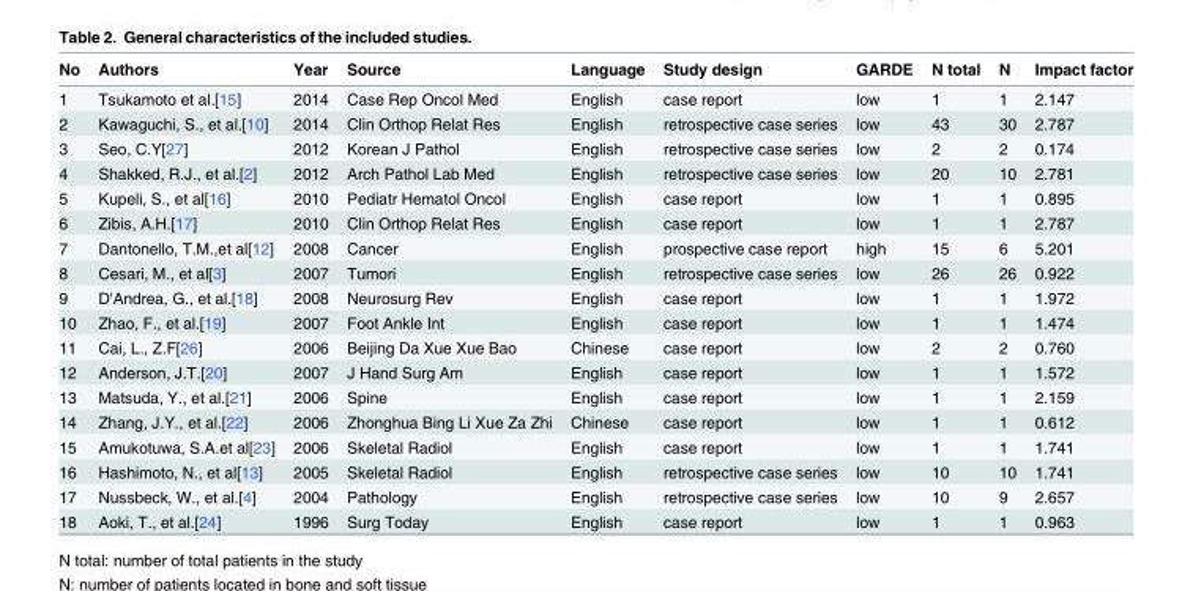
<table><thead><tr><td>No</td><td>Authors</td><td>Year</td><td>Source</td><td>Language</td><td>Study design</td><td>GARDE</td><td>N total</td><td>N</td><td>Impact factor</td></tr></thead><tbody><tr><td>1</td><td>Tsukamoto et al.[15]</td><td>2014</td><td>Case Rep Oncol Med</td><td>English</td><td>case report</td><td>low</td><td>1</td><td>1</td><td>2.147</td></tr><tr><td>2</td><td>Kawaguchi, S., et al.[10]</td><td>2014</td><td>Clin Orthop Relat Res</td><td>English</td><td>retrospective case series</td><td>low</td><td>43</td><td>30</td><td>2.787</td></tr><tr><td>3</td><td>Seo, C.Y[27]</td><td>2012</td><td>Korean J Pathol</td><td>English</td><td>retrospective case series</td><td>low</td><td>2</td><td>2</td><td>0.174</td></tr><tr><td>4</td><td>Shakked, R.J., et al.[2]</td><td>2012</td><td>Arch Pathol Lab Med</td><td>English</td><td>retrospective case series</td><td>low</td><td>20</td><td>10</td><td>2.781</td></tr><tr><td>5</td><td>Kupeli, S., et al[16]</td><td>2010</td><td>Pediatr Hematol Oncol</td><td>English</td><td>case report</td><td>low</td><td>1</td><td>1</td><td>0.895</td></tr><tr><td>6</td><td>Zibis, A.H.[17]</td><td>2010</td><td>Clin Orthop Relat Res</td><td>English</td><td>case report</td><td>low</td><td>1</td><td>1</td><td>2.787</td></tr><tr><td>7</td><td>Dantonello, T.M.,et al[12]</td><td>2008</td><td>Cancer</td><td>English</td><td>prospective case report</td><td>high</td><td>15</td><td>6</td><td>5.201</td></tr><tr><td>8</td><td>Cesari, M., et al[3]</td><td>2007</td><td>Tumori</td><td>English</td><td>retrospective case series</td><td>low</td><td>26</td><td>26</td><td>0.922</td></tr><tr><td>9</td><td>D&#x27;Andrea, G., et al.[18]</td><td>2008</td><td>Neurosurg Rev</td><td>English</td><td>case report</td><td>low</td><td>1</td><td>1</td><td>1.972</td></tr><tr><td>10</td><td>Zhao, F., et al.[19]</td><td>2007</td><td>Foot Ankle Int</td><td>English</td><td>case report</td><td>low</td><td>1</td><td>1</td><td>1.474</td></tr><tr><td>11</td><td>Cai, L., Z.F[26]</td><td>2006</td><td>Beijing Da Xue Xue Bao</td><td>Chinese</td><td>case report</td><td>low</td><td>2</td><td>2</td><td>0.760</td></tr><tr><td>12</td><td>Anderson, J.T.[20]</td><td>2007</td><td>J Hand Surg Am</td><td>English</td><td>case report</td><td>low</td><td>1</td><td>1</td><td>1.572</td></tr><tr><td>13</td><td>Matsuda, Y., et al.[21]</td><td>2006</td><td>Spine</td><td>English</td><td>case report</td><td>low</td><td>1</td><td>1</td><td>2.159</td></tr><tr><td>14</td><td>Zhang, J.Y., et al.[22]</td><td>2006</td><td>Zhonghua Bing Li Xue Za Zhi</td><td>Chinese</td><td>case report</td><td>low</td><td>1</td><td>1</td><td>0.612</td></tr><tr><td>15</td><td>Amukotuwa, S.A.et al[23]</td><td>2006</td><td>Skeletal Radiol</td><td>English</td><td>case report</td><td>low</td><td>1</td><td>1</td><td>1.741</td></tr><tr><td>16</td><td>Hashimoto, N., et al[13]</td><td>2005</td><td>Skeletal Radiol</td><td>English</td><td>retrospective case series</td><td>low</td><td>10</td><td>10</td><td>1.741</td></tr><tr><td>17</td><td>Nussbeck, W., et al.[4]</td><td>2004</td><td>Pathology</td><td>English</td><td>retrospective case series</td><td>low</td><td>10</td><td>9</td><td>2.657</td></tr><tr><td>18</td><td>Aoki, T., et al.[24]</td><td>1996</td><td>Surg Today</td><td>English</td><td>case report</td><td>low</td><td>1</td><td>1</td><td>0.963</td></tr></tbody></table>